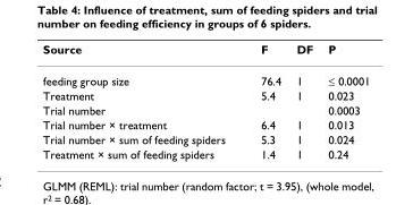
<table><thead><tr><td>Source</td><td>F</td><td>DF</td><td>P</td></tr></thead><tbody><tr><td>feeding group size</td><td>76.4</td><td>1</td><td>≤ 0.0001</td></tr><tr><td>Treatment</td><td>5.4</td><td>1</td><td>0.023</td></tr><tr><td>Trial number</td><td></td><td></td><td>0.0003</td></tr><tr><td>Trial number × treatment</td><td>6.4</td><td>1</td><td>0.013</td></tr><tr><td>Trial number × sum of feeding spiders</td><td>5.3</td><td>1</td><td>0.024</td></tr><tr><td>Treatment × sum of feeding spiders</td><td>1.4</td><td>1</td><td>0.24</td></tr></tbody></table>